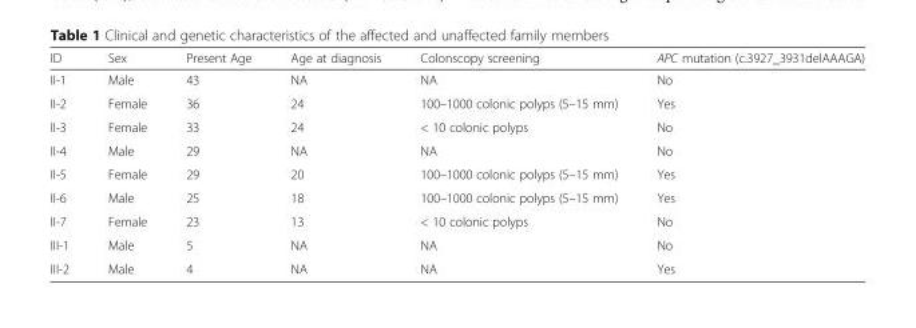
<table><thead><tr><td>ID</td><td>Sex</td><td>Present Age</td><td>Age at diagnosis</td><td>Colonscopy screening</td><td>APC mutation (c.3927_3931delAAAGA)</td></tr></thead><tbody><tr><td>II-1</td><td>Male</td><td>43</td><td>NA</td><td>NA</td><td>No</td></tr><tr><td>II-2</td><td>Female</td><td>36</td><td>24</td><td>100–1000 colonic polyps (5–15 mm)</td><td>Yes</td></tr><tr><td>II-3</td><td>Female</td><td>33</td><td>24</td><td>&lt; 10 colonic polyps</td><td>No</td></tr><tr><td>II-4</td><td>Male</td><td>29</td><td>NA</td><td>NA</td><td>No</td></tr><tr><td>II-5</td><td>Female</td><td>29</td><td>20</td><td>100–1000 colonic polyps (5–15 mm)</td><td>Yes</td></tr><tr><td>II-6</td><td>Male</td><td>25</td><td>18</td><td>100–1000 colonic polyps (5–15 mm)</td><td>Yes</td></tr><tr><td>II-7</td><td>Female</td><td>23</td><td>13</td><td>&lt; 10 colonic polyps</td><td>No</td></tr><tr><td>III-1</td><td>Male</td><td>5</td><td>NA</td><td>NA</td><td>No</td></tr><tr><td>III-2</td><td>Male</td><td>4</td><td>NA</td><td>NA</td><td>Yes</td></tr></tbody></table>